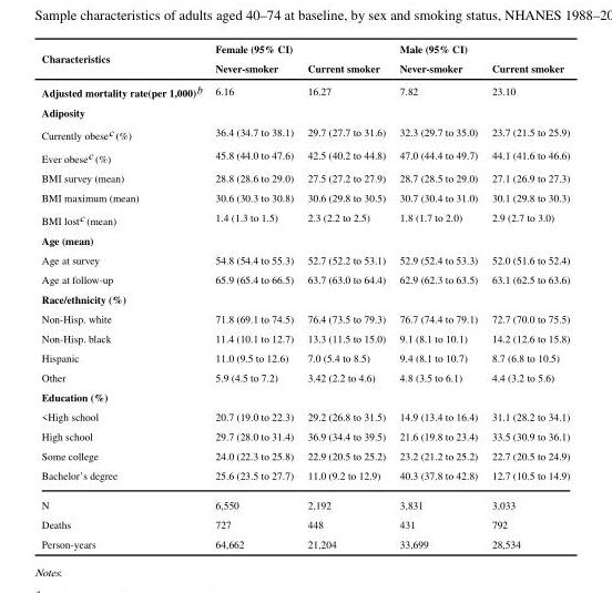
<table><thead><tr><td rowspan="2">Characteristics</td><td colspan="2">Female (95% CI)</td><td colspan="2">Male (95% CI)</td></tr><tr><td>Never-smoker</td><td>Current smoker</td><td>Never-smoker</td><td>Current smoker</td></tr></thead><tbody><tr><td>Adjusted mortality rate(per 1,000)<sup>b</sup></td><td>6.16</td><td>16.27</td><td>7.82</td><td>23.10</td></tr><tr><td colspan="5">Adiposity</td></tr><tr><td>Currently obese<sup>c</sup> (%)</td><td>36.4 (34.7 to 38.1)</td><td>29.7 (27.7 to 31.6)</td><td>32.3 (29.7 to 35.0)</td><td>23.7 (21.5 to 25.9)</td></tr><tr><td>Ever obese<sup>c</sup> (%)</td><td>45.8 (44.0 to 47.6)</td><td>42.5 (40.2 to 44.8)</td><td>47.0 (44.4 to 49.7)</td><td>44.1 (41.6 to 46.6)</td></tr><tr><td>BMI survey (mean)</td><td>28.8 (28.6 to 29.0)</td><td>27.5 (27.2 to 27.9)</td><td>28.7 (28.5 to 29.0)</td><td>27.1 (26.9 to 27.3)</td></tr><tr><td>BMI maximum (mean)</td><td>30.6 (30.3 to 30.8)</td><td>30.6 (29.8 to 30.5)</td><td>30.7 (30.4 to 31.0)</td><td>30.1 (29.8 to 30.3)</td></tr><tr><td>BMI lost<sup>c</sup> (mean)</td><td>1.4 (1.3 to 1.5)</td><td>2.3 (2.2 to 2.5)</td><td>1.8 (1.7 to 2.0)</td><td>2.9 (2.7 to 3.0)</td></tr><tr><td colspan="5">Age (mean)</td></tr><tr><td>Age at survey</td><td>54.8 (54.4 to 55.3)</td><td>52.7 (52.2 to 53.1)</td><td>52.9 (52.4 to 53.3)</td><td>52.0 (51.6 to 52.4)</td></tr><tr><td>Age at follow-up</td><td>65.9 (65.4 to 66.5)</td><td>63.7 (63.0 to 64.4)</td><td>62.9 (62.3 to 63.5)</td><td>63.1 (62.5 to 63.6)</td></tr><tr><td colspan="5">Race/ethnicity (%)</td></tr><tr><td>Non-Hisp. white</td><td>71.8 (69.1 to 74.5)</td><td>76.4 (73.5 to 79.3)</td><td>76.7 (74.4 to 79.1)</td><td>72.7 (70.0 to 75.5)</td></tr><tr><td>Non-Hisp. black</td><td>11.4 (10.1 to 12.7)</td><td>13.3 (11.5 to 15.0)</td><td>9.1 (8.1 to 10.1)</td><td>14.2 (12.6 to 15.8)</td></tr><tr><td>Hispanic</td><td>11.0 (9.5 to 12.6)</td><td>7.0 (5.4 to 8.5)</td><td>9.4 (8.1 to 10.7)</td><td>8.7 (6.8 to 10.5)</td></tr><tr><td>Other</td><td>5.9 (4.5 to 7.2)</td><td>3.42 (2.2 to 4.6)</td><td>4.8 (3.5 to 6.1)</td><td>4.4 (3.2 to 5.6)</td></tr><tr><td colspan="5">Education (%)</td></tr><tr><td>&lt;High school</td><td>20.7 (19.0 to 22.3)</td><td>29.2 (26.8 to 31.5)</td><td>14.9 (13.4 to 16.4)</td><td>31.1 (28.2 to 34.1)</td></tr><tr><td>High school</td><td>29.7 (28.0 to 31.4)</td><td>36.9 (34.4 to 39.5)</td><td>21.6 (19.8 to 23.4)</td><td>33.5 (30.9 to 36.1)</td></tr><tr><td>Some college</td><td>24.0 (22.3 to 25.8)</td><td>22.9 (20.5 to 25.2)</td><td>23.2 (21.2 to 25.2)</td><td>22.7 (20.5 to 24.9)</td></tr><tr><td>Bachelor’s degree</td><td>25.6 (23.5 to 27.7)</td><td>11.0 (9.2 to 12.9)</td><td>40.3 (37.8 to 42.8)</td><td>12.7 (10.5 to 14.9)</td></tr><tr><td>N</td><td>6,550</td><td>2,192</td><td>3,831</td><td>3,033</td></tr><tr><td>Deaths</td><td>727</td><td>448</td><td>431</td><td>792</td></tr><tr><td>Person-years</td><td>64,662</td><td>21,204</td><td>33,699</td><td>28,534</td></tr></tbody></table>